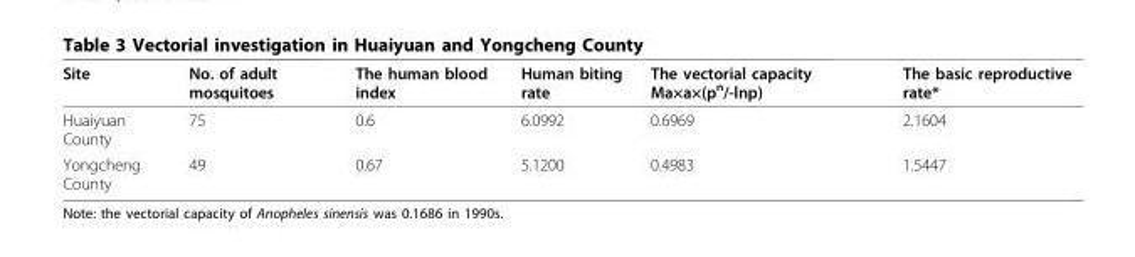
<table><thead><tr><td>Site</td><td>No. of adult mosquitoes</td><td>The human blood index</td><td>Human biting rate</td><td>The vectorial capacity Ma×a×(p<sup>n</sup>/-lnp)</td><td>The basic reproductive rate*</td></tr></thead><tbody><tr><td>Huaiyuan County</td><td>75</td><td>0.6</td><td>6.0992</td><td>0.6969</td><td>2.1604</td></tr><tr><td>Yongcheng County</td><td>49</td><td>0.67</td><td>5.1200</td><td>0.4983</td><td>1.5447</td></tr></tbody></table>